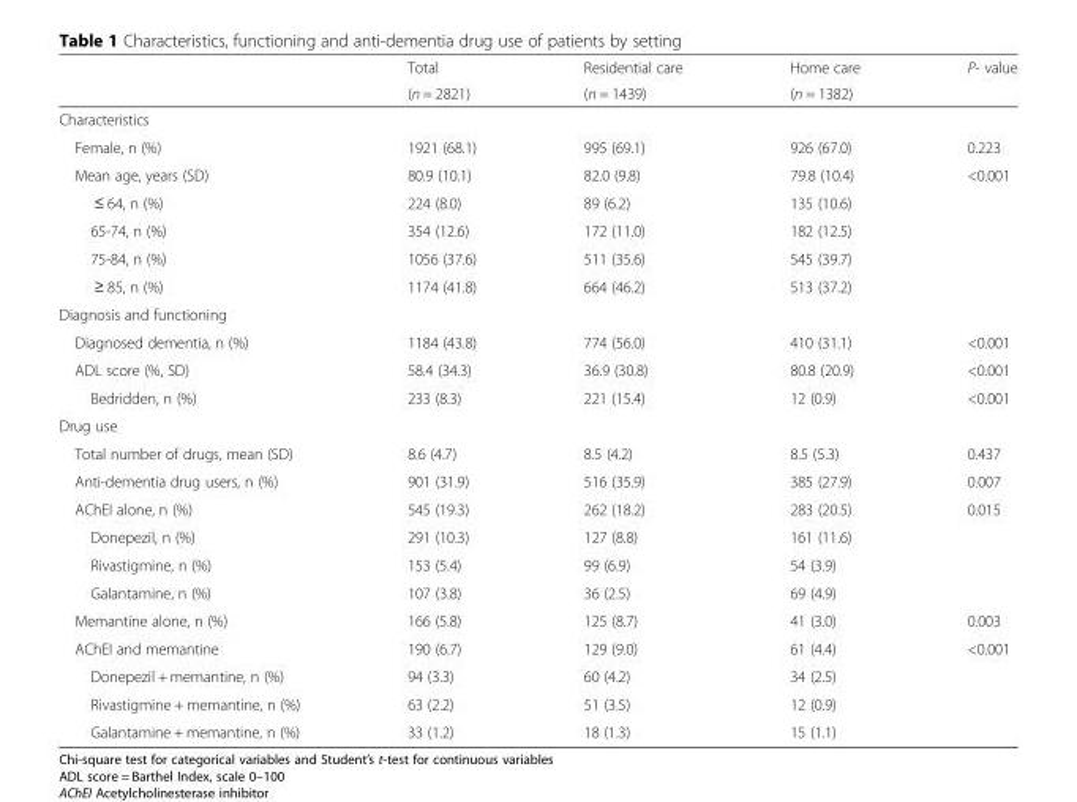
<table><thead><tr><td rowspan="2"></td><td rowspan="2">Total (n = 2821)</td><td rowspan="2">Residential care (n = 1439)</td><td rowspan="2">Home care (n = 1382)</td><td rowspan="2">P- value</td></tr><tr></tr></thead><tbody><tr><td colspan="5">Characteristics</td></tr><tr><td>Female, n (%)</td><td>1921 (68.1)</td><td>995 (69.1)</td><td>926 (67.0)</td><td>0.223</td></tr><tr><td>Mean age, years (SD)</td><td>80.9 (10.1)</td><td>82.0 (9.8)</td><td>79.8 (10.4)</td><td>&lt;0.001</td></tr><tr><td>≤ 64, n (%)</td><td>224 (8.0)</td><td>89 (6.2)</td><td>135 (10.6)</td><td></td></tr><tr><td>65-74, n (%)</td><td>354 (12.6)</td><td>172 (11.0)</td><td>182 (12.5)</td><td></td></tr><tr><td>75-84, n (%)</td><td>1056 (37.6)</td><td>511 (35.6)</td><td>545 (39.7)</td><td></td></tr><tr><td>≥ 85, n (%)</td><td>1174 (41.8)</td><td>664 (46.2)</td><td>513 (37.2)</td><td></td></tr><tr><td colspan="5">Diagnosis and functioning</td></tr><tr><td>Diagnosed dementia, n (%)</td><td>1184 (43.8)</td><td>774 (56.0)</td><td>410 (31.1)</td><td>&lt;0.001</td></tr><tr><td>ADL score (%, SD)</td><td>58.4 (34.3)</td><td>36.9 (30.8)</td><td>80.8 (20.9)</td><td>&lt;0.001</td></tr><tr><td>Bedridden, n (%)</td><td>233 (8.3)</td><td>221 (15.4)</td><td>12 (0.9)</td><td>&lt;0.001</td></tr><tr><td colspan="5">Drug use</td></tr><tr><td>Total number of drugs, mean (SD)</td><td>8.6 (4.7)</td><td>8.5 (4.2)</td><td>8.5 (5.3)</td><td>0.437</td></tr><tr><td>Anti-dementia drug users, n (%)</td><td>901 (31.9)</td><td>516 (35.9)</td><td>385 (27.9)</td><td>0.007</td></tr><tr><td>AChEI alone, n (%)</td><td>545 (19.3)</td><td>262 (18.2)</td><td>283 (20.5)</td><td>0.015</td></tr><tr><td>Donepezil, n (%)</td><td>291 (10.3)</td><td>127 (8.8)</td><td>161 (11.6)</td><td></td></tr><tr><td>Rivastigmine, n (%)</td><td>153 (5.4)</td><td>99 (6.9)</td><td>54 (3.9)</td><td></td></tr><tr><td>Galantamine, n (%)</td><td>107 (3.8)</td><td>36 (2.5)</td><td>69 (4.9)</td><td></td></tr><tr><td>Memantine alone, n (%)</td><td>166 (5.8)</td><td>125 (8.7)</td><td>41 (3.0)</td><td>0.003</td></tr><tr><td>AChEI and memantine</td><td>190 (6.7)</td><td>129 (9.0)</td><td>61 (4.4)</td><td>&lt;0.001</td></tr><tr><td>Donepezil + memantine, n (%)</td><td>94 (3.3)</td><td>60 (4.2)</td><td>34 (2.5)</td><td></td></tr><tr><td>Rivastigmine + memantine, n (%)</td><td>63 (2.2)</td><td>51 (3.5)</td><td>12 (0.9)</td><td></td></tr><tr><td>Galantamine + memantine, n (%)</td><td>33 (1.2)</td><td>18 (1.3)</td><td>15 (1.1)</td><td></td></tr></tbody></table>